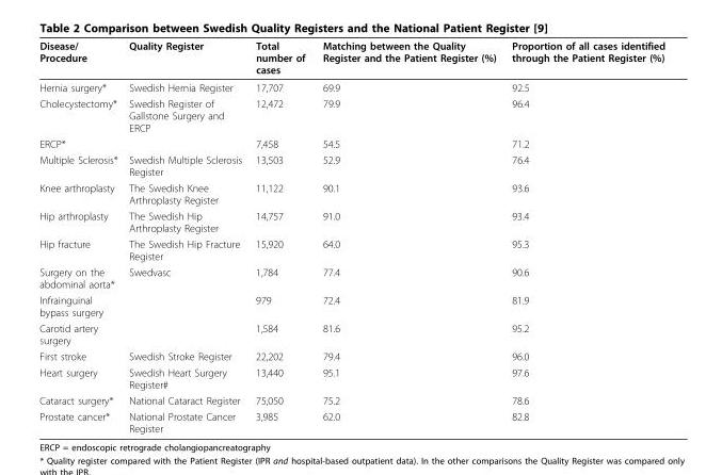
<table><thead><tr><td>Disease/ Procedure</td><td>Quality Register</td><td>Total number of cases</td><td>Matching between the Quality Register and the Patient Register (%)</td><td>Proportion of all cases identified through the Patient Register (%)</td></tr></thead><tbody><tr><td>Hernia surgery*</td><td>Swedish Hernia Register</td><td>17,707</td><td>69.9</td><td>92.5</td></tr><tr><td>Cholecystectomy*</td><td>Swedish Register of Gallstone Surgery and ERCP</td><td>12,472</td><td>79.9</td><td>96.4</td></tr><tr><td>ERCP*</td><td></td><td>7,458</td><td>54.5</td><td>71.2</td></tr><tr><td>Multiple Sclerosis*</td><td>Swedish Multiple Sclerosis Register</td><td>13,503</td><td>52.9</td><td>76.4</td></tr><tr><td>Knee arthroplasty</td><td>The Swedish Knee Arthroplasty Register</td><td>11,122</td><td>90.1</td><td>93.6</td></tr><tr><td>Hip arthroplasty</td><td>The Swedish Hip Arthroplasty Register</td><td>14,757</td><td>91.0</td><td>93.4</td></tr><tr><td>Hip fracture</td><td>The Swedish Hip Fracture Register</td><td>15,920</td><td>64.0</td><td>95.3</td></tr><tr><td>Surgery on the abdominal aorta*</td><td>Swedvasc</td><td>1,784</td><td>77.4</td><td>90.6</td></tr><tr><td>Infrainguinal bypass surgery</td><td></td><td>979</td><td>72.4</td><td>81.9</td></tr><tr><td>Carotid artery surgery</td><td></td><td>1,584</td><td>81.6</td><td>95.2</td></tr><tr><td>First stroke</td><td>Swedish Stroke Register</td><td>22,202</td><td>79.4</td><td>96.0</td></tr><tr><td>Heart surgery</td><td>Swedish Heart Surgery Register#</td><td>13,440</td><td>95.1</td><td>97.6</td></tr><tr><td>Cataract surgery*</td><td>National Cataract Register</td><td>75,050</td><td>75.2</td><td>78.6</td></tr><tr><td>Prostate cancer*</td><td>National Prostate Cancer Register</td><td>3,985</td><td>62.0</td><td>82.8</td></tr></tbody></table>